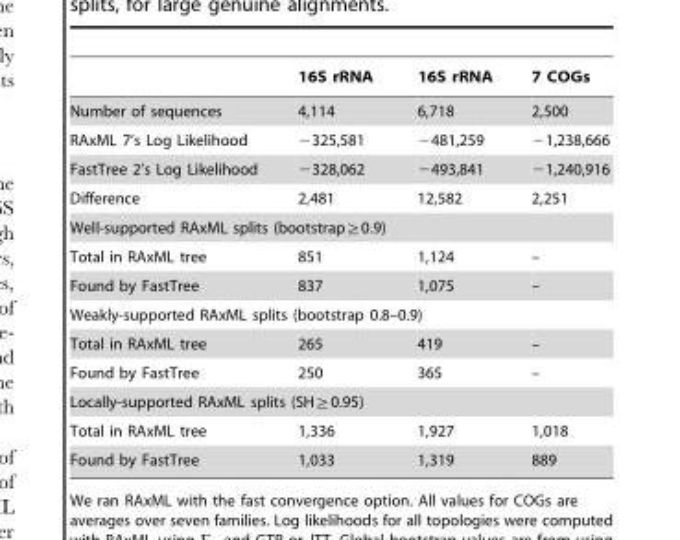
<table><thead><tr><td></td><td>16S rRNA</td><td>16S rRNA</td><td>7 COGs</td></tr></thead><tbody><tr><td>Number of sequences</td><td>4,114</td><td>6,718</td><td>2,500</td></tr><tr><td>RAxML 7’s Log Likelihood</td><td>−325,581</td><td>−481,259</td><td>−1,238,666</td></tr><tr><td>FastTree 2’s Log Likelihood</td><td>−328,062</td><td>−493,841</td><td>−1,240,916</td></tr><tr><td>Difference</td><td>2,481</td><td>12,582</td><td>2,251</td></tr><tr><td colspan="4">Well-supported RAxML splits (bootstrap§0.9)</td></tr><tr><td>Total in RAxML tree</td><td>851</td><td>1,124</td><td>–</td></tr><tr><td>Found by FastTree</td><td>837</td><td>1,075</td><td>–</td></tr><tr><td colspan="4">Weakly-supported RAxML splits (bootstrap 0.8–0.9)</td></tr><tr><td>Total in RAxML tree</td><td>265</td><td>419</td><td>–</td></tr><tr><td>Found by FastTree</td><td>250</td><td>365</td><td>–</td></tr><tr><td colspan="4">Locally-supported RAxML splits (SH§0.95)</td></tr><tr><td>Total in RAxML tree</td><td>1,336</td><td>1,927</td><td>1,018</td></tr><tr><td>Found by FastTree</td><td>1,033</td><td>1,319</td><td>889</td></tr></tbody></table>